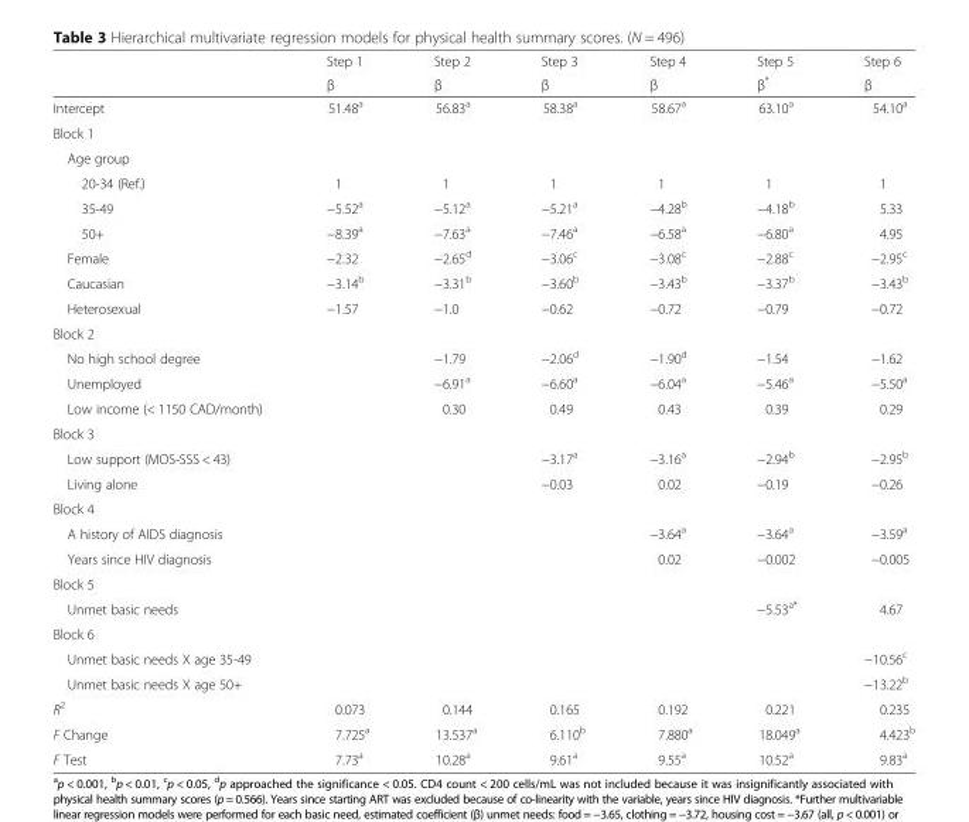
<table><thead><tr><td rowspan="2"></td><td rowspan="2">Step 1 β</td><td rowspan="2">Step 2 β</td><td rowspan="2">Step 3 β</td><td rowspan="2">Step 4 β</td><td rowspan="2">Step 5 β*</td><td rowspan="2">Step 6 β</td></tr><tr></tr></thead><tbody><tr><td>Intercept</td><td>51.48<sup>a</sup></td><td>56.83<sup>a</sup></td><td>58.38<sup>a</sup></td><td>58.67<sup>a</sup></td><td>63.10<sup>a</sup></td><td>54.10<sup>a</sup></td></tr><tr><td colspan="7">Block 1</td></tr><tr><td colspan="7">Age group</td></tr><tr><td>20-34 (Ref.)</td><td>1</td><td>1</td><td>1</td><td>1</td><td>1</td><td>1</td></tr><tr><td>35-49</td><td>−5.52<sup>a</sup></td><td>−5.12<sup>a</sup></td><td>−5.21<sup>a</sup></td><td>−4.28<sup>b</sup></td><td>−4.18<sup>b</sup></td><td>5.33</td></tr><tr><td>50+</td><td>−8.39<sup>a</sup></td><td>−7.63<sup>a</sup></td><td>−7.46<sup>a</sup></td><td>−6.58<sup>a</sup></td><td>−6.80<sup>a</sup></td><td>4.95</td></tr><tr><td>Female</td><td>−2.32</td><td>−2.65<sup>d</sup></td><td>−3.06<sup>c</sup></td><td>−3.08<sup>c</sup></td><td>−2.88<sup>c</sup></td><td>−2.95<sup>c</sup></td></tr><tr><td>Caucasian</td><td>−3.14<sup>b</sup></td><td>−3.31<sup>b</sup></td><td>−3.60<sup>b</sup></td><td>−3.43<sup>b</sup></td><td>−3.37<sup>b</sup></td><td>−3.43<sup>b</sup></td></tr><tr><td>Heterosexual</td><td>−1.57</td><td>−1.0</td><td>−0.62</td><td>−0.72</td><td>−0.79</td><td>−0.72</td></tr><tr><td colspan="7">Block 2</td></tr><tr><td>No high school degree</td><td></td><td>−1.79</td><td>−2.06<sup>d</sup></td><td>−1.90<sup>d</sup></td><td>−1.54</td><td>−1.62</td></tr><tr><td>Unemployed</td><td></td><td>−6.91<sup>a</sup></td><td>−6.60<sup>a</sup></td><td>−6.04<sup>a</sup></td><td>−5.46<sup>a</sup></td><td>−5.50<sup>a</sup></td></tr><tr><td>Low income (&lt; 1150 CAD/month)</td><td></td><td>0.30</td><td>0.49</td><td>0.43</td><td>0.39</td><td>0.29</td></tr><tr><td colspan="7">Block 3</td></tr><tr><td>Low support (MOS-SSS &lt; 43)</td><td></td><td></td><td>−3.17<sup>a</sup></td><td>−3.16<sup>a</sup></td><td>−2.94<sup>b</sup></td><td>−2.95<sup>b</sup></td></tr><tr><td>Living alone</td><td></td><td></td><td>−0.03</td><td>0.02</td><td>−0.19</td><td>−0.26</td></tr><tr><td colspan="7">Block 4</td></tr><tr><td>A history of AIDS diagnosis</td><td></td><td></td><td></td><td>−3.64<sup>a</sup></td><td>−3.64<sup>a</sup></td><td>−3.59<sup>a</sup></td></tr><tr><td>Years since HIV diagnosis</td><td></td><td></td><td></td><td>0.02</td><td>−0.002</td><td>−0.005</td></tr><tr><td colspan="7">Block 5</td></tr><tr><td>Unmet basic needs</td><td></td><td></td><td></td><td></td><td>−5.53<sup>a*</sup></td><td>4.67</td></tr><tr><td colspan="7">Block 6</td></tr><tr><td>Unmet basic needs X age 35-49</td><td></td><td></td><td></td><td></td><td></td><td>−10.56<sup>c</sup></td></tr><tr><td>Unmet basic needs X age 50+</td><td></td><td></td><td></td><td></td><td></td><td>−13.22<sup>b</sup></td></tr><tr><td>R<sup>2</sup></td><td>0.073</td><td>0.144</td><td>0.165</td><td>0.192</td><td>0.221</td><td>0.235</td></tr><tr><td>F Change</td><td>7.725<sup>a</sup></td><td>13.537<sup>a</sup></td><td>6.110<sup>b</sup></td><td>7.880<sup>a</sup></td><td>18.049<sup>a</sup></td><td>4.423<sup>b</sup></td></tr><tr><td>F Test</td><td>7.73<sup>a</sup></td><td>10.28<sup>a</sup></td><td>9.61<sup>a</sup></td><td>9.55<sup>a</sup></td><td>10.52<sup>a</sup></td><td>9.83<sup>a</sup></td></tr></tbody></table>